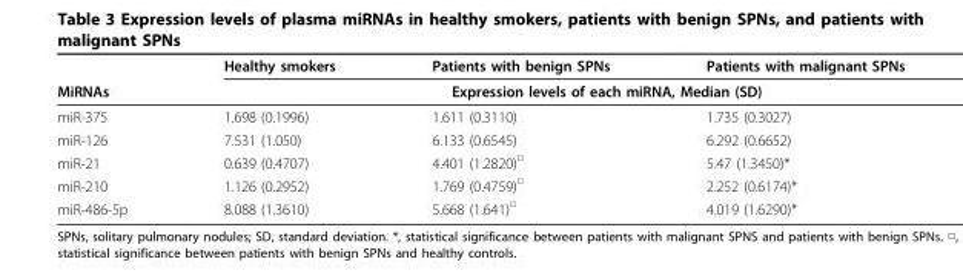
<table><thead><tr><td rowspan="2">MiRNAs</td><td>Healthy smokers</td><td>Patients with benign SPNs</td><td>Patients with malignant SPNs</td></tr><tr><td colspan="3">Expression levels of each miRNA, Median (SD)</td></tr></thead><tbody><tr><td>miR-375</td><td>1.698 (0.1996)</td><td>1.611 (0.3110)</td><td>1.735 (0.3027)</td></tr><tr><td>miR-126</td><td>7.531 (1.050)</td><td>6.133 (0.6545)</td><td>6.292 (0.6652)</td></tr><tr><td>miR-21</td><td>0.639 (0.4707)</td><td>4.401 (1.2820)<sup>□</sup></td><td>5.47 (1.3450)*</td></tr><tr><td>miR-210</td><td>1.126 (0.2952)</td><td>1.769 (0.4759)<sup>□</sup></td><td>2.252 (0.6174)*</td></tr><tr><td>miR-486-5p</td><td>8.088 (1.3610)</td><td>5.668 (1.641)<sup>□</sup></td><td>4.019 (1.6290)*</td></tr></tbody></table>